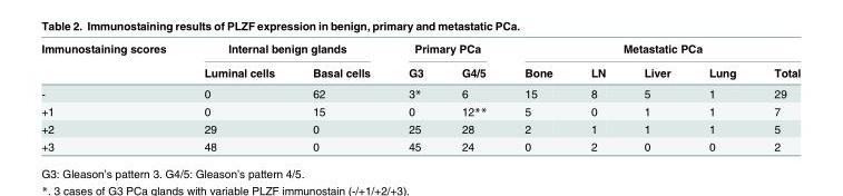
<table><thead><tr><td rowspan="2">Immunostaining scores</td><td colspan="2">Internal benign glands</td><td colspan="2">Primary PCa</td><td colspan="5">Metastatic PCa</td></tr><tr><td>Luminal cells</td><td>Basal cells</td><td>G3</td><td>G4/5</td><td>Bone</td><td>LN</td><td>Liver</td><td>Lung</td><td>Total</td></tr></thead><tbody><tr><td>-</td><td>0</td><td>62</td><td>3*</td><td>6</td><td>15</td><td>8</td><td>5</td><td>1</td><td>29</td></tr><tr><td>+1</td><td>0</td><td>15</td><td>0</td><td>12**</td><td>5</td><td>0</td><td>1</td><td>1</td><td>7</td></tr><tr><td>+2</td><td>29</td><td>0</td><td>25</td><td>28</td><td>2</td><td>1</td><td>1</td><td>1</td><td>5</td></tr><tr><td>+3</td><td>48</td><td>0</td><td>45</td><td>24</td><td>0</td><td>2</td><td>0</td><td>0</td><td>2</td></tr></tbody></table>